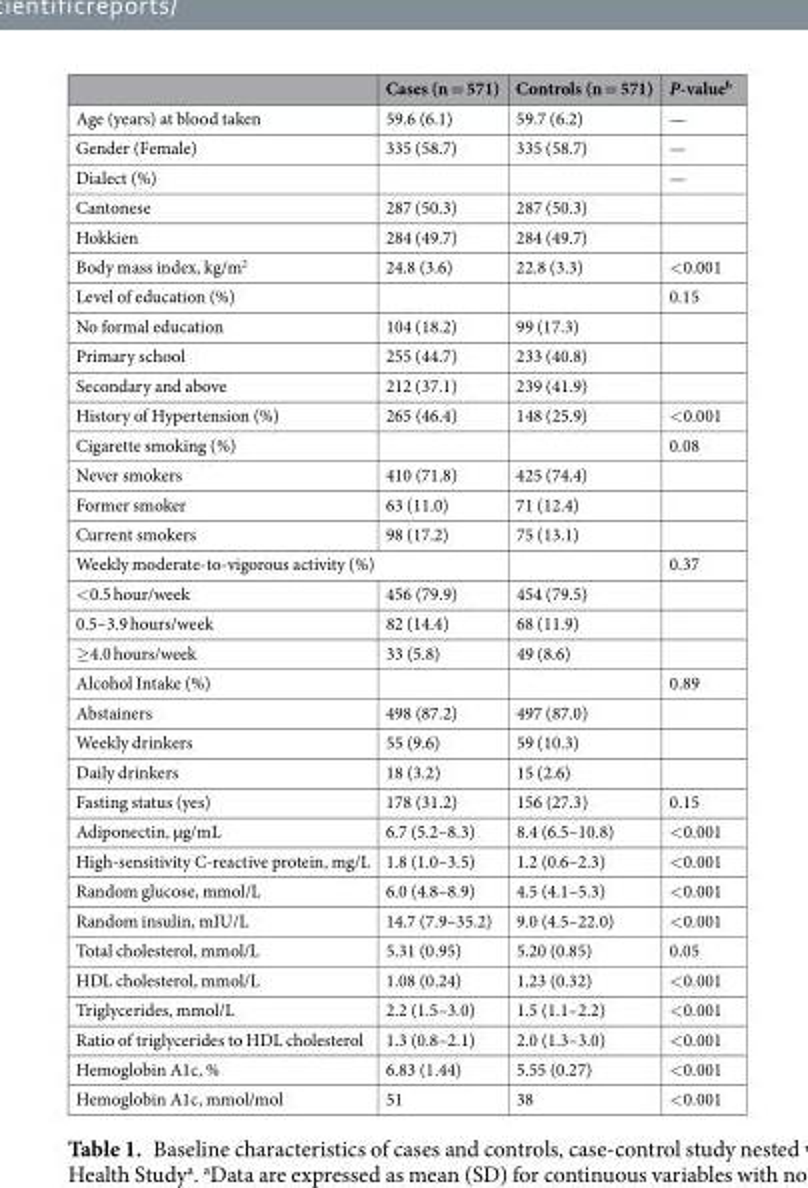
<table><thead><tr><td></td><td>Cases (n = 571)</td><td>Controls (n = 571)</td><td>P-value<sup>b</sup></td></tr></thead><tbody><tr><td>Age (years) at blood taken</td><td>59.6 (6.1)</td><td>59.7 (6.2)</td><td>—</td></tr><tr><td>Gender (Female)</td><td>335 (58.7)</td><td>335 (58.7)</td><td>—</td></tr><tr><td>Dialect (%)</td><td></td><td></td><td>—</td></tr><tr><td>Cantonese</td><td>287 (50.3)</td><td>287 (50.3)</td><td></td></tr><tr><td>Hokkien</td><td>284 (49.7)</td><td>284 (49.7)</td><td></td></tr><tr><td>Body mass index, kg/m<sup>2</sup></td><td>24.8 (3.6)</td><td>22.8 (3.3)</td><td>&lt;0.001</td></tr><tr><td>Level of education (%)</td><td></td><td></td><td>0.15</td></tr><tr><td>No formal education</td><td>104 (18.2)</td><td>99 (17.3)</td><td></td></tr><tr><td>Primary school</td><td>255 (44.7)</td><td>233 (40.8)</td><td></td></tr><tr><td>Secondary and above</td><td>212 (37.1)</td><td>239 (41.9)</td><td></td></tr><tr><td>History of Hypertension (%)</td><td>265 (46.4)</td><td>148 (25.9)</td><td>&lt;0.001</td></tr><tr><td>Cigarette smoking (%)</td><td></td><td></td><td>0.08</td></tr><tr><td>Never smokers</td><td>410 (71.8)</td><td>425 (74.4)</td><td></td></tr><tr><td>Former smoker</td><td>63 (11.0)</td><td>71 (12.4)</td><td></td></tr><tr><td>Current smokers</td><td>98 (17.2)</td><td>75 (13.1)</td><td></td></tr><tr><td colspan="2">Weekly moderate-to-vigorous activity (%)</td><td></td><td>0.37</td></tr><tr><td>&lt;0.5 hour/week</td><td>456 (79.9)</td><td>454 (79.5)</td><td></td></tr><tr><td>0.5–3.9 hours/week</td><td>82 (14.4)</td><td>68 (11.9)</td><td></td></tr><tr><td>≥4.0 hours/week</td><td>33 (5.8)</td><td>49 (8.6)</td><td></td></tr><tr><td>Alcohol Intake (%)</td><td></td><td></td><td>0.89</td></tr><tr><td>Abstainers</td><td>498 (87.2)</td><td>497 (87.0)</td><td></td></tr><tr><td>Weekly drinkers</td><td>55 (9.6)</td><td>59 (10.3)</td><td></td></tr><tr><td>Daily drinkers</td><td>18 (3.2)</td><td>15 (2.6)</td><td></td></tr><tr><td>Fasting status (yes)</td><td>178 (31.2)</td><td>156 (27.3)</td><td>0.15</td></tr><tr><td>Adiponectin, µg/mL</td><td>6.7 (5.2–8.3)</td><td>8.4 (6.5–10.8)</td><td>&lt;0.001</td></tr><tr><td>High-sensitivity C-reactive protein, mg/L</td><td>1.8 (1.0–3.5)</td><td>1.2 (0.6–2.3)</td><td>&lt;0.001</td></tr><tr><td>Random glucose, mmol/L</td><td>6.0 (4.8–8.9)</td><td>4.5 (4.1–5.3)</td><td>&lt;0.001</td></tr><tr><td>Random insulin, mIU/L</td><td>14.7 (7.9–35.2)</td><td>9.0 (4.5–22.0)</td><td>&lt;0.001</td></tr><tr><td>Total cholesterol, mmol/L</td><td>5.31 (0.95)</td><td>5.20 (0.85)</td><td>0.05</td></tr><tr><td>HDL cholesterol, mmol/L</td><td>1.08 (0.24)</td><td>1.23 (0.32)</td><td>&lt;0.001</td></tr><tr><td>Triglycerides, mmol/L</td><td>2.2 (1.5–3.0)</td><td>1.5 (1.1–2.2)</td><td>&lt;0.001</td></tr><tr><td>Ratio of triglycerides to HDL cholesterol</td><td>1.3 (0.8–2.1)</td><td>2.0 (1.3–3.0)</td><td>&lt;0.001</td></tr><tr><td>Hemoglobin A1c, %</td><td>6.83 (1.44)</td><td>5.55 (0.27)</td><td>&lt;0.001</td></tr><tr><td>Hemoglobin A1c, mmol/mol</td><td>51</td><td>38</td><td>&lt;0.001</td></tr></tbody></table>